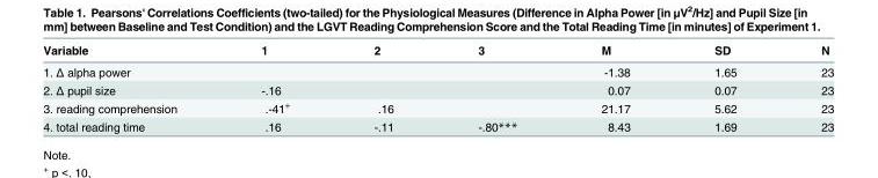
<table><thead><tr><td>Variable</td><td>1</td><td>2</td><td>3</td><td>M</td><td>SD</td><td>N</td></tr></thead><tbody><tr><td>1. Δ alpha power</td><td></td><td></td><td></td><td>-1.38</td><td>1.65</td><td>23</td></tr><tr><td>2. Δ pupil size</td><td>-.16</td><td></td><td></td><td>0.07</td><td>0.07</td><td>23</td></tr><tr><td>3. reading comprehension</td><td>.-41<sup>+</sup></td><td>.16</td><td></td><td>21.17</td><td>5.62</td><td>23</td></tr><tr><td>4. total reading time</td><td>.16</td><td>-.11</td><td>-.80***</td><td>8.43</td><td>1.69</td><td>23</td></tr></tbody></table>